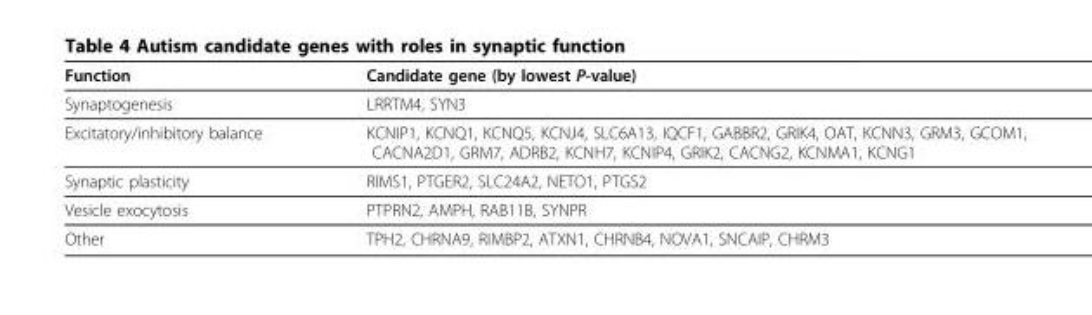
<table><thead><tr><td>Function</td><td>Candidate gene (by lowest P-value)</td></tr></thead><tbody><tr><td>Synaptogenesis</td><td>LRRTM4, SYN3</td></tr><tr><td>Excitatory/inhibitory balance</td><td>KCNIP1, KCNQ1, KCNQ5, KCNJ4, SLC6A13, IQCF1, GABBR2, GRIK4, OAT, KCNN3, GRM3, GCOM1, CACNA2D1, GRM7, ADRB2, KCNH7, KCNIP4, GRIK2, CACNG2, KCNMA1, KCNG1</td></tr><tr><td>Synaptic plasticity</td><td>RIMS1, PTGER2, SLC24A2, NETO1, PTGS2</td></tr><tr><td>Vesicle exocytosis</td><td>PTPRN2, AMPH, RAB11B, SYNPR</td></tr><tr><td>Other</td><td>TPH2, CHRNA9, RIMBP2, ATXN1, CHRNB4, NOVA1, SNCAIP, CHRM3</td></tr></tbody></table>